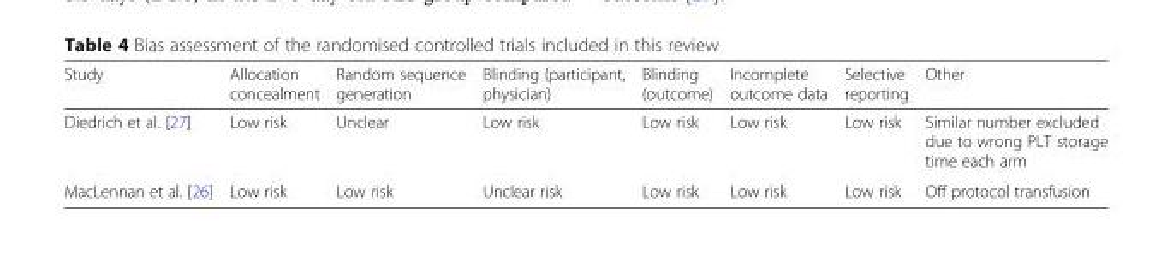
<table><thead><tr><td>Study</td><td>Allocation concealment</td><td>Random sequence generation</td><td>Blinding (participant, physician)</td><td>Blinding (outcome)</td><td>Incomplete outcome data</td><td>Selective reporting</td><td>Other</td></tr></thead><tbody><tr><td>Diedrich et al. [27]</td><td>Low risk</td><td>Unclear</td><td>Low risk</td><td>Low risk</td><td>Low risk</td><td>Low risk</td><td>Similar number excluded due to wrong PLT storage time each arm</td></tr><tr><td>MacLennan et al. [26]</td><td>Low risk</td><td>Low risk</td><td>Unclear risk</td><td>Low risk</td><td>Low risk</td><td>Low risk</td><td>Off protocol transfusion</td></tr></tbody></table>